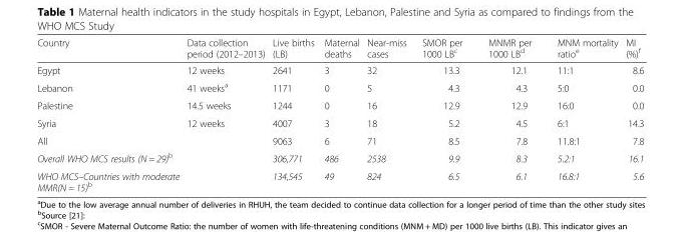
<table><thead><tr><td>Country</td><td>Data collection period (2012–2013)</td><td>Live births (LB)</td><td>Maternal deaths</td><td>Near-miss cases</td><td>SMOR per 1000 LB<sup>c</sup></td><td>MNMR per 1000 LB<sup>d</sup></td><td>MNM mortality ratio<sup>e</sup></td><td>MI (%)<sup>f</sup></td></tr></thead><tbody><tr><td>Egypt</td><td>12 weeks</td><td>2641</td><td>3</td><td>32</td><td>13.3</td><td>12.1</td><td>11:1</td><td>8.6</td></tr><tr><td>Lebanon</td><td>41 weeks<sup>a</sup></td><td>1171</td><td>0</td><td>5</td><td>4.3</td><td>4.3</td><td>5:0</td><td>0.0</td></tr><tr><td>Palestine</td><td>14.5 weeks</td><td>1244</td><td>0</td><td>16</td><td>12.9</td><td>12.9</td><td>16:0</td><td>0.0</td></tr><tr><td>Syria</td><td>12 weeks</td><td>4007</td><td>3</td><td>18</td><td>5.2</td><td>4.5</td><td>6:1</td><td>14.3</td></tr><tr><td>All</td><td></td><td>9063</td><td>6</td><td>71</td><td>8.5</td><td>7.8</td><td>11.8:1</td><td>7.8</td></tr><tr><td>Overall WHO MCS results (N = 29)<sup>b</sup></td><td></td><td>306,771</td><td>486</td><td>2538</td><td>9.9</td><td>8.3</td><td>5.2:1</td><td>16.1</td></tr><tr><td>WHO MCS–Countries with moderate MMR(N = 15)<sup>b</sup></td><td></td><td>134,545</td><td>49</td><td>824</td><td>6.5</td><td>6.1</td><td>16.8:1</td><td>5.6</td></tr></tbody></table>